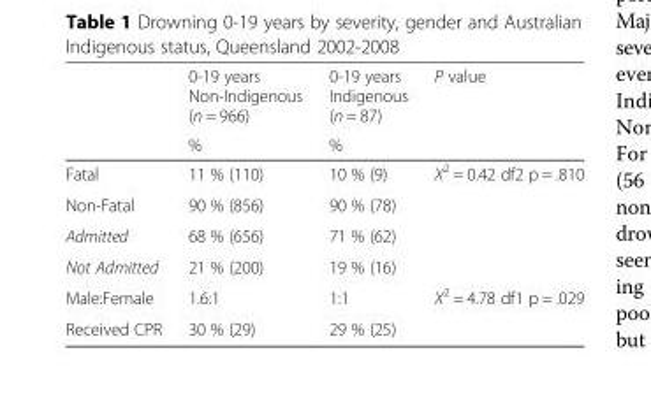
<table><thead><tr><td rowspan="2"></td><td rowspan="2">0-19 years Non-Indigenous (n = 966) %</td><td rowspan="2">0-19 years Indigenous (n = 87) %</td><td rowspan="2">P value</td></tr><tr></tr></thead><tbody><tr><td>Fatal</td><td>11 % (110)</td><td>10 % (9)</td><td rowspan="4">X<sup>2</sup> = 0.42 df2 p = .810</td></tr><tr><td>Non-Fatal</td><td>90 % (856)</td><td>90 % (78)</td></tr><tr><td>Admitted</td><td>68 % (656)</td><td>71 % (62)</td></tr><tr><td>Not Admitted</td><td>21 % (200)</td><td>19 % (16)</td></tr><tr><td>Male:Female</td><td>1.6:1</td><td>1:1</td><td>X<sup>2</sup> = 4.78 df1 p = .029</td></tr><tr><td>Received CPR</td><td>30 % (29)</td><td>29 % (25)</td><td></td></tr></tbody></table>